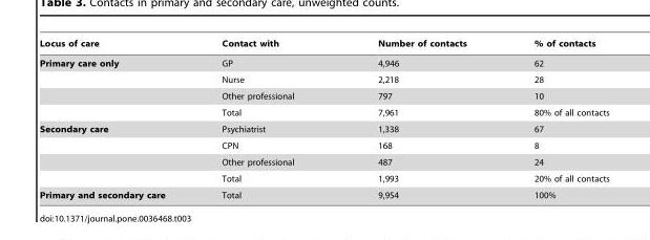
<table><thead><tr><td>Locus of care</td><td>Contact with</td><td>Number of contacts</td><td>% of contacts</td></tr></thead><tbody><tr><td rowspan="4">Primary care only</td><td>GP</td><td>4,946</td><td>62</td></tr><tr><td>Nurse</td><td>2,218</td><td>28</td></tr><tr><td>Other professional</td><td>797</td><td>10</td></tr><tr><td>Total</td><td>7,961</td><td>80% of all contacts</td></tr><tr><td rowspan="4">Secondary care</td><td>Psychiatrist</td><td>1,338</td><td>67</td></tr><tr><td>CPN</td><td>168</td><td>8</td></tr><tr><td>Other professional</td><td>487</td><td>24</td></tr><tr><td>Total</td><td>1,993</td><td>20% of all contacts</td></tr><tr><td>Primary and secondary care</td><td>Total</td><td>9,954</td><td>100%</td></tr></tbody></table>